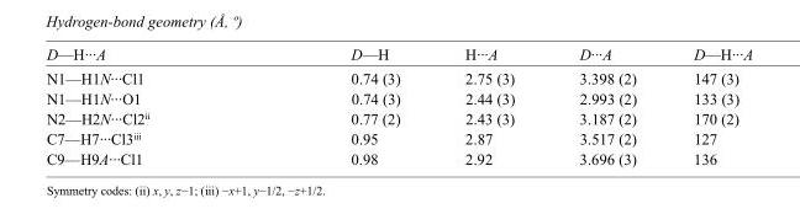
<table><tbody><tr><td>D—H···A</td><td>D—H</td><td>H···A</td><td>D···A</td><td>D—H···A</td></tr><tr><td>N1—H1N···Cl1</td><td>0.74 (3)</td><td>2.75 (3)</td><td>3.398 (2)</td><td>147 (3)</td></tr><tr><td>N1—H1N···O1</td><td>0.74 (3)</td><td>2.44 (3)</td><td>2.993 (2)</td><td>133 (3)</td></tr><tr><td>N2—H2N···Cl2<sup>ii</sup></td><td>0.77 (2)</td><td>2.43 (3)</td><td>3.187 (2)</td><td>170 (2)</td></tr><tr><td>C7—H7···Cl3<sup>iii</sup></td><td>0.95</td><td>2.87</td><td>3.517 (2)</td><td>127</td></tr><tr><td>C9—H9A···Cl1</td><td>0.98</td><td>2.92</td><td>3.696 (3)</td><td>136</td></tr></tbody></table>